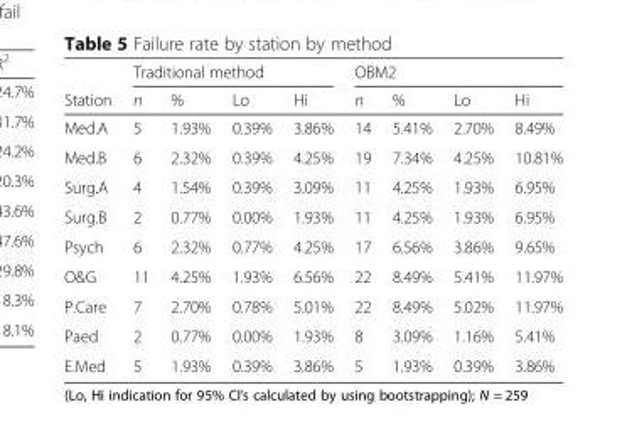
<table><thead><tr><td rowspan="2">Station</td><td colspan="4">Traditional method</td><td colspan="4">OBM2</td></tr><tr><td>n</td><td>%</td><td>Lo</td><td>Hi</td><td>n</td><td>%</td><td>Lo</td><td>Hi</td></tr></thead><tbody><tr><td>Med.A</td><td>5</td><td>1.93%</td><td>0.39%</td><td>3.86%</td><td>14</td><td>5.41%</td><td>2.70%</td><td>8.49%</td></tr><tr><td>Med.B</td><td>6</td><td>2.32%</td><td>0.39%</td><td>4.25%</td><td>19</td><td>7.34%</td><td>4.25%</td><td>10.81%</td></tr><tr><td>Surg.A</td><td>4</td><td>1.54%</td><td>0.39%</td><td>3.09%</td><td>11</td><td>4.25%</td><td>1.93%</td><td>6.95%</td></tr><tr><td>Surg.B</td><td>2</td><td>0.77%</td><td>0.00%</td><td>1.93%</td><td>11</td><td>4.25%</td><td>1.93%</td><td>6.95%</td></tr><tr><td>Psych</td><td>6</td><td>2.32%</td><td>0.77%</td><td>4.25%</td><td>17</td><td>6.56%</td><td>3.86%</td><td>9.65%</td></tr><tr><td>O&amp;G</td><td>11</td><td>4.25%</td><td>1.93%</td><td>6.56%</td><td>22</td><td>8.49%</td><td>5.41%</td><td>11.97%</td></tr><tr><td>P.Care</td><td>7</td><td>2.70%</td><td>0.78%</td><td>5.01%</td><td>22</td><td>8.49%</td><td>5.02%</td><td>11.97%</td></tr><tr><td>Paed</td><td>2</td><td>0.77%</td><td>0.00%</td><td>1.93%</td><td>8</td><td>3.09%</td><td>1.16%</td><td>5.41%</td></tr><tr><td>E.Med</td><td>5</td><td>1.93%</td><td>0.39%</td><td>3.86%</td><td>5</td><td>1.93%</td><td>0.39%</td><td>3.86%</td></tr></tbody></table>